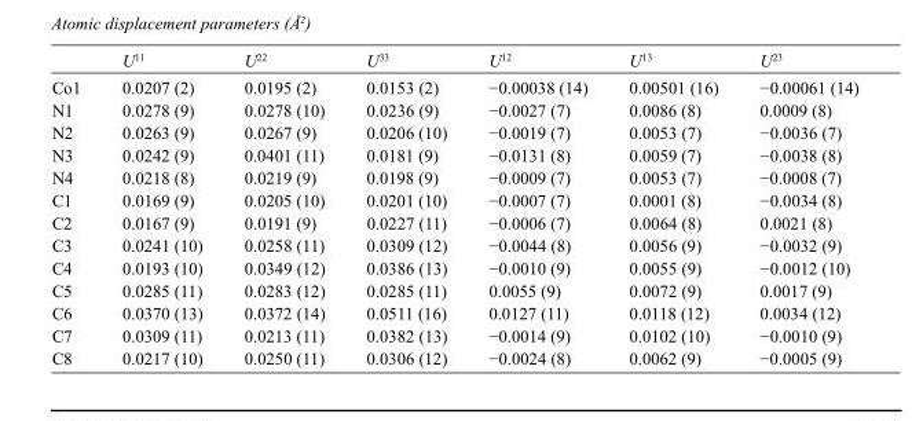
<table><thead><tr><td></td><td>U<sup>11</sup></td><td>U<sup>22</sup></td><td>U<sup>33</sup></td><td>U<sup>12</sup></td><td>U<sup>13</sup></td><td>U<sup>23</sup></td></tr></thead><tbody><tr><td>Co1</td><td>0.0207 (2)</td><td>0.0195 (2)</td><td>0.0153 (2)</td><td>−0.00038 (14)</td><td>0.00501 (16)</td><td>−0.00061 (14)</td></tr><tr><td>N1</td><td>0.0278 (9)</td><td>0.0278 (10)</td><td>0.0236 (9)</td><td>−0.0027 (7)</td><td>0.0086 (8)</td><td>0.0009 (8)</td></tr><tr><td>N2</td><td>0.0263 (9)</td><td>0.0267 (9)</td><td>0.0206 (10)</td><td>−0.0019 (7)</td><td>0.0053 (7)</td><td>−0.0036 (7)</td></tr><tr><td>N3</td><td>0.0242 (9)</td><td>0.0401 (11)</td><td>0.0181 (9)</td><td>−0.0131 (8)</td><td>0.0059 (7)</td><td>−0.0038 (8)</td></tr><tr><td>N4</td><td>0.0218 (8)</td><td>0.0219 (9)</td><td>0.0198 (9)</td><td>−0.0009 (7)</td><td>0.0053 (7)</td><td>−0.0008 (7)</td></tr><tr><td>C1</td><td>0.0169 (9)</td><td>0.0205 (10)</td><td>0.0201 (10)</td><td>−0.0007 (7)</td><td>0.0001 (8)</td><td>−0.0034 (8)</td></tr><tr><td>C2</td><td>0.0167 (9)</td><td>0.0191 (9)</td><td>0.0227 (11)</td><td>−0.0006 (7)</td><td>0.0064 (8)</td><td>0.0021 (8)</td></tr><tr><td>C3</td><td>0.0241 (10)</td><td>0.0258 (11)</td><td>0.0309 (12)</td><td>−0.0044 (8)</td><td>0.0056 (9)</td><td>−0.0032 (9)</td></tr><tr><td>C4</td><td>0.0193 (10)</td><td>0.0349 (12)</td><td>0.0386 (13)</td><td>−0.0010 (9)</td><td>0.0055 (9)</td><td>−0.0012 (10)</td></tr><tr><td>C5</td><td>0.0285 (11)</td><td>0.0283 (12)</td><td>0.0285 (11)</td><td>0.0055 (9)</td><td>0.0072 (9)</td><td>0.0017 (9)</td></tr><tr><td>C6</td><td>0.0370 (13)</td><td>0.0372 (14)</td><td>0.0511 (16)</td><td>0.0127 (11)</td><td>0.0118 (12)</td><td>0.0034 (12)</td></tr><tr><td>C7</td><td>0.0309 (11)</td><td>0.0213 (11)</td><td>0.0382 (13)</td><td>−0.0014 (9)</td><td>0.0102 (10)</td><td>−0.0010 (9)</td></tr><tr><td>C8</td><td>0.0217 (10)</td><td>0.0250 (11)</td><td>0.0306 (12)</td><td>−0.0024 (8)</td><td>0.0062 (9)</td><td>−0.0005 (9)</td></tr></tbody></table>